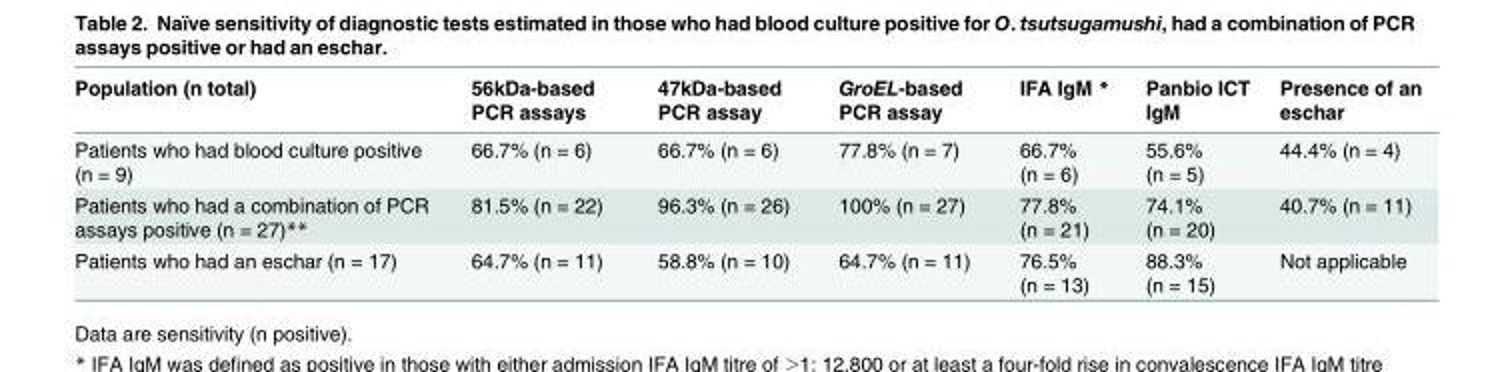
<table><thead><tr><td>Population (n total)</td><td>56kDa-based PCR assays</td><td>47kDa-based PCR assay</td><td>GroEL-based PCR assay</td><td>IFA IgM *</td><td>Panbio ICT IgM</td><td>Presence of an eschar</td></tr></thead><tbody><tr><td>Patients who had blood culture positive (n = 9)</td><td>66.7% (n = 6)</td><td>66.7% (n = 6)</td><td>77.8% (n = 7)</td><td>66.7% (n = 6)</td><td>55.6% (n = 5)</td><td>44.4% (n = 4)</td></tr><tr><td>Patients who had a combination of PCR assays positive (n = 27)**</td><td>81.5% (n = 22)</td><td>96.3% (n = 26)</td><td>100% (n = 27)</td><td>77.8% (n = 21)</td><td>74.1% (n = 20)</td><td>40.7% (n = 11)</td></tr><tr><td>Patients who had an eschar (n = 17)</td><td>64.7% (n = 11)</td><td>58.8% (n = 10)</td><td>64.7% (n = 11)</td><td>76.5% (n = 13)</td><td>88.3% (n = 15)</td><td>Not applicable</td></tr></tbody></table>